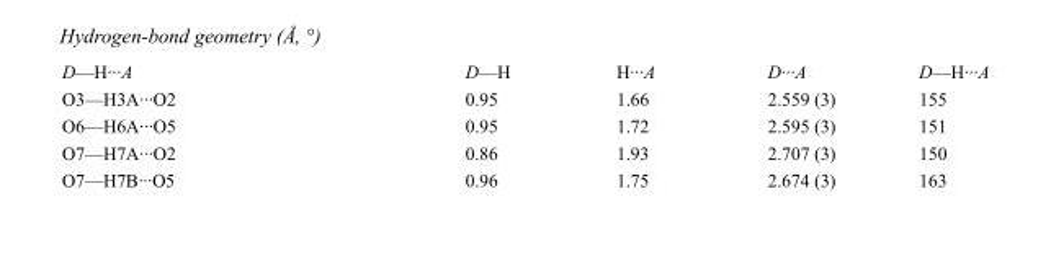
<table><tbody><tr><td>D—H···A</td><td>D—H</td><td>H···A</td><td>D···A</td><td>D—H···A</td></tr><tr><td>O3—H3A···O2</td><td>0.95</td><td>1.66</td><td>2.559 (3)</td><td>155</td></tr><tr><td>O6—H6A···O5</td><td>0.95</td><td>1.72</td><td>2.595 (3)</td><td>151</td></tr><tr><td>O7—H7A···O2</td><td>0.86</td><td>1.93</td><td>2.707 (3)</td><td>150</td></tr><tr><td>O7—H7B···O5</td><td>0.96</td><td>1.75</td><td>2.674 (3)</td><td>163</td></tr></tbody></table>